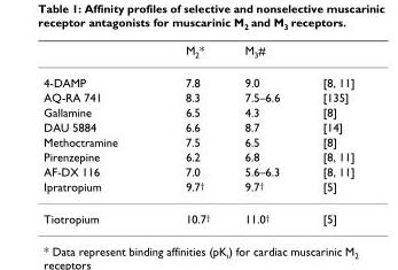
<table><thead><tr><td></td><td>M<sub>2</sub>*</td><td>M<sub>3</sub>#</td><td></td></tr></thead><tbody><tr><td>4-DAMP</td><td>7.8</td><td>9.0</td><td>[8, 11]</td></tr><tr><td>AQ-RA 741</td><td>8.3</td><td>7.5–6.6</td><td>[135]</td></tr><tr><td>Gallamine</td><td>6.5</td><td>4.3</td><td>[8]</td></tr><tr><td>DAU 5884</td><td>6.6</td><td>8.7</td><td>[14]</td></tr><tr><td>Methoctramine</td><td>7.5</td><td>6.5</td><td>[8]</td></tr><tr><td>Pirenzepine</td><td>6.2</td><td>6.8</td><td>[8, 11]</td></tr><tr><td>AF-DX 116</td><td>7.0</td><td>5.6–6.3</td><td>[8, 11]</td></tr><tr><td>Ipratropium</td><td>9.7<sup>†</sup></td><td>9.7<sup>†</sup></td><td>[5]</td></tr><tr><td>Tiotropium</td><td>10.7<sup>†</sup></td><td>11.0<sup>†</sup></td><td>[5]</td></tr></tbody></table>